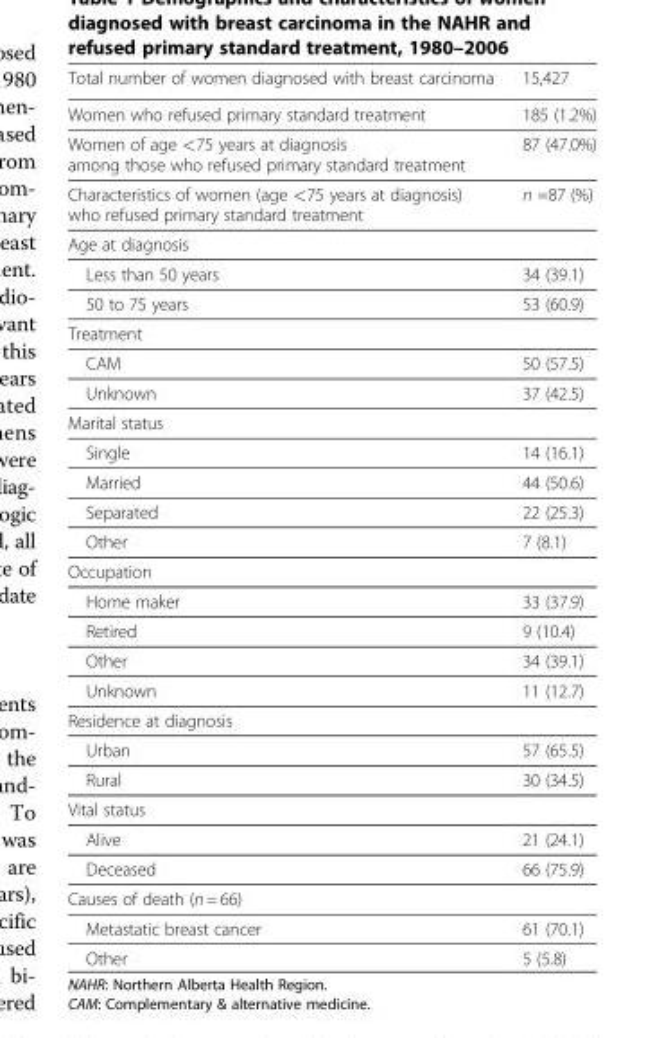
<table><thead><tr><td>Total number of women diagnosed with breast carcinoma</td><td>15,427</td></tr></thead><tbody><tr><td>Women who refused primary standard treatment</td><td>185 (1.2%)</td></tr><tr><td>Women of age &lt;75 years at diagnosis among those who refused primary standard treatment</td><td>87 (47.0%)</td></tr><tr><td>Characteristics of women (age &lt;75 years at diagnosis) who refused primary standard treatment</td><td>n =87 (%)</td></tr><tr><td colspan="2">Age at diagnosis</td></tr><tr><td>Less than 50 years</td><td>34 (39.1)</td></tr><tr><td>50 to 75 years</td><td>53 (60.9)</td></tr><tr><td colspan="2">Treatment</td></tr><tr><td>CAM</td><td>50 (57.5)</td></tr><tr><td>Unknown</td><td>37 (42.5)</td></tr><tr><td colspan="2">Marital status</td></tr><tr><td>Single</td><td>14 (16.1)</td></tr><tr><td>Married</td><td>44 (50.6)</td></tr><tr><td>Separated</td><td>22 (25.3)</td></tr><tr><td>Other</td><td>7 (8.1)</td></tr><tr><td colspan="2">Occupation</td></tr><tr><td>Home maker</td><td>33 (37.9)</td></tr><tr><td>Retired</td><td>9 (10.4)</td></tr><tr><td>Other</td><td>34 (39.1)</td></tr><tr><td>Unknown</td><td>11 (12.7)</td></tr><tr><td colspan="2">Residence at diagnosis</td></tr><tr><td>Urban</td><td>57 (65.5)</td></tr><tr><td>Rural</td><td>30 (34.5)</td></tr><tr><td colspan="2">Vital status</td></tr><tr><td>Alive</td><td>21 (24.1)</td></tr><tr><td>Deceased</td><td>66 (75.9)</td></tr><tr><td colspan="2">Causes of death (n = 66)</td></tr><tr><td>Metastatic breast cancer</td><td>61 (70.1)</td></tr><tr><td>Other</td><td>5 (5.8)</td></tr></tbody></table>